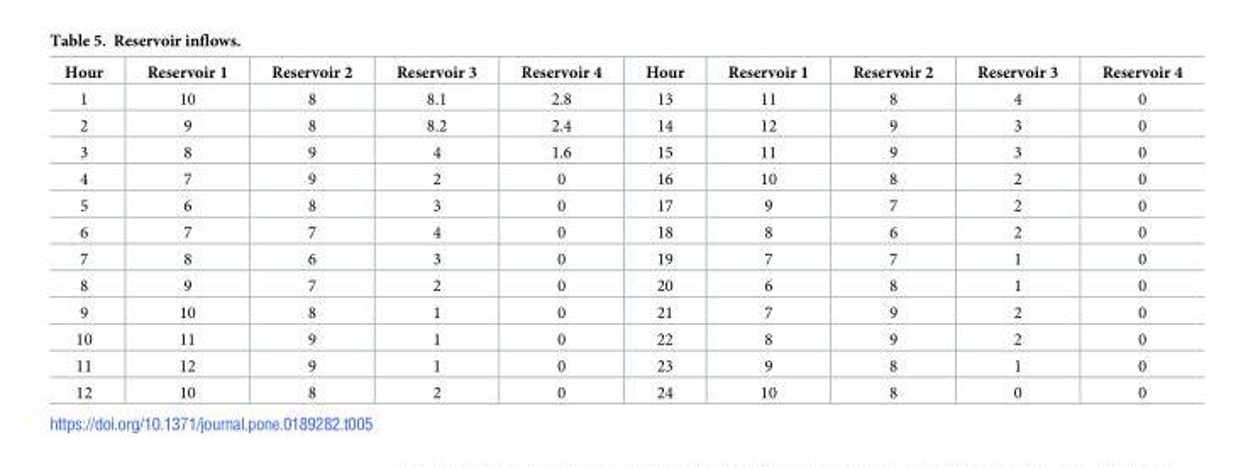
<table><thead><tr><td>Hour</td><td>Reservoir 1</td><td>Reservoir 2</td><td>Reservoir 3</td><td>Reservoir 4</td><td>Hour</td><td>Reservoir 1</td><td>Reservoir 2</td><td>Reservoir 3</td><td>Reservoir 4</td></tr></thead><tbody><tr><td>1</td><td>10</td><td>8</td><td>8.1</td><td>2.8</td><td>13</td><td>11</td><td>8</td><td>4</td><td>0</td></tr><tr><td>2</td><td>9</td><td>8</td><td>8.2</td><td>2.4</td><td>14</td><td>12</td><td>9</td><td>3</td><td>0</td></tr><tr><td>3</td><td>8</td><td>9</td><td>4</td><td>1.6</td><td>15</td><td>11</td><td>9</td><td>3</td><td>0</td></tr><tr><td>4</td><td>7</td><td>9</td><td>2</td><td>0</td><td>16</td><td>10</td><td>8</td><td>2</td><td>0</td></tr><tr><td>5</td><td>6</td><td>8</td><td>3</td><td>0</td><td>17</td><td>9</td><td>7</td><td>2</td><td>0</td></tr><tr><td>6</td><td>7</td><td>7</td><td>4</td><td>0</td><td>18</td><td>8</td><td>6</td><td>2</td><td>0</td></tr><tr><td>7</td><td>8</td><td>6</td><td>3</td><td>0</td><td>19</td><td>7</td><td>7</td><td>1</td><td>0</td></tr><tr><td>8</td><td>9</td><td>7</td><td>2</td><td>0</td><td>20</td><td>6</td><td>8</td><td>1</td><td>0</td></tr><tr><td>9</td><td>10</td><td>8</td><td>1</td><td>0</td><td>21</td><td>7</td><td>9</td><td>2</td><td>0</td></tr><tr><td>10</td><td>11</td><td>9</td><td>1</td><td>0</td><td>22</td><td>8</td><td>9</td><td>2</td><td>0</td></tr><tr><td>11</td><td>12</td><td>9</td><td>1</td><td>0</td><td>23</td><td>9</td><td>8</td><td>1</td><td>0</td></tr><tr><td>12</td><td>10</td><td>8</td><td>2</td><td>0</td><td>24</td><td>10</td><td>8</td><td>0</td><td>0</td></tr></tbody></table>